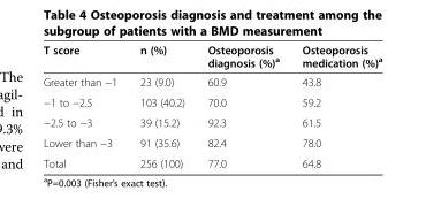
<table><thead><tr><td>T score</td><td>n (%)</td><td>Osteoporosis diagnosis (%)<sup>a</sup></td><td>Osteoporosis medication (%)<sup>a</sup></td></tr></thead><tbody><tr><td>Greater than −1</td><td>23 (9.0)</td><td>60.9</td><td>43.8</td></tr><tr><td>−1 to −2.5</td><td>103 (40.2)</td><td>70.0</td><td>59.2</td></tr><tr><td>−2.5 to −3</td><td>39 (15.2)</td><td>92.3</td><td>61.5</td></tr><tr><td>Lower than −3</td><td>91 (35.6)</td><td>82.4</td><td>78.0</td></tr><tr><td>Total</td><td>256 (100)</td><td>77.0</td><td>64.8</td></tr></tbody></table>